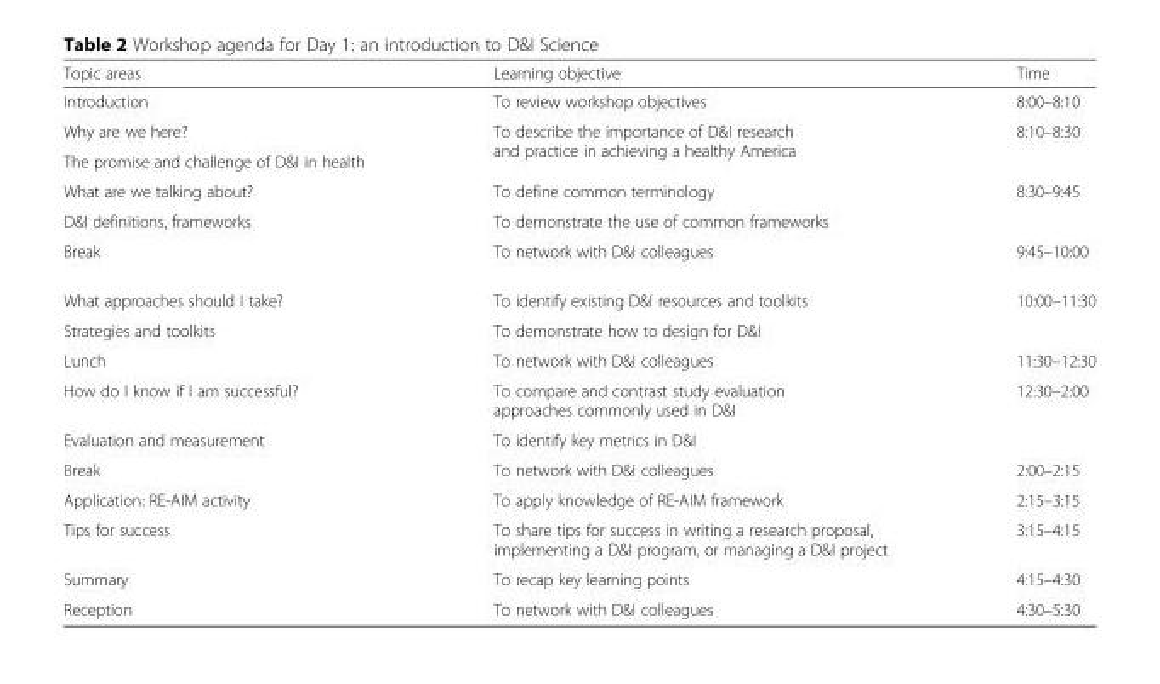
<table><thead><tr><td>Topic areas</td><td>Learning objective</td><td>Time</td></tr></thead><tbody><tr><td>Introduction</td><td>To review workshop objectives</td><td>8:00–8:10</td></tr><tr><td>Why are we here?</td><td rowspan="2">To describe the importance of D&amp;I research and practice in achieving a healthy America</td><td rowspan="2">8:10–8:30</td></tr><tr><td>The promise and challenge of D&amp;I in health</td></tr><tr><td>What are we talking about?</td><td>To define common terminology</td><td rowspan="2">8:30–9:45</td></tr><tr><td>D&amp;I definitions, frameworks</td><td>To demonstrate the use of common frameworks</td></tr><tr><td>Break</td><td>To network with D&amp;I colleagues</td><td>9:45–10:00</td></tr><tr><td>What approaches should I take?</td><td>To identify existing D&amp;I resources and toolkits</td><td rowspan="2">10:00–11:30</td></tr><tr><td>Strategies and toolkits</td><td>To demonstrate how to design for D&amp;I</td></tr><tr><td>Lunch</td><td>To network with D&amp;I colleagues</td><td>11:30–12:30</td></tr><tr><td>How do I know if I am successful?</td><td>To compare and contrast study evaluation approaches commonly used in D&amp;I</td><td rowspan="2">12:30–2:00</td></tr><tr><td>Evaluation and measurement</td><td>To identify key metrics in D&amp;I</td></tr><tr><td>Break</td><td>To network with D&amp;I colleagues</td><td>2:00–2:15</td></tr><tr><td>Application: RE-AIM activity</td><td>To apply knowledge of RE-AIM framework</td><td>2:15–3:15</td></tr><tr><td>Tips for success</td><td>To share tips for success in writing a research proposal, implementing a D&amp;I program, or managing a D&amp;I project</td><td>3:15–4:15</td></tr><tr><td>Summary</td><td>To recap key learning points</td><td>4:15–4:30</td></tr><tr><td>Reception</td><td>To network with D&amp;I colleagues</td><td>4:30–5:30</td></tr></tbody></table>